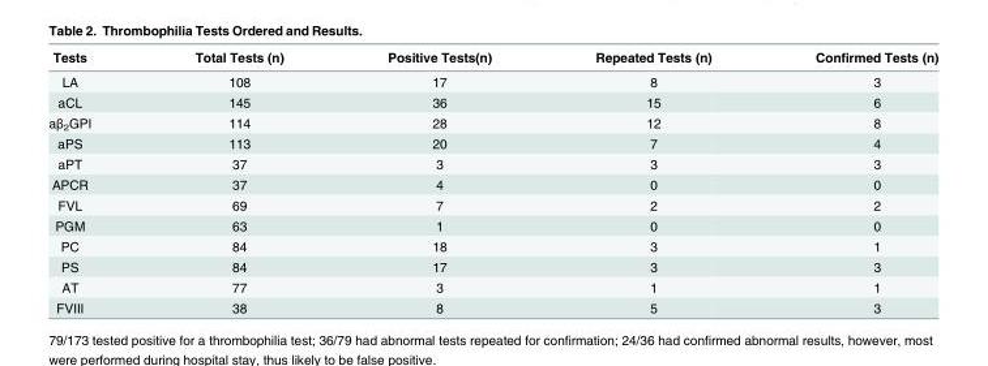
<table><thead><tr><td>Tests</td><td>Total Tests (n)</td><td>Positive Tests(n)</td><td>Repeated Tests (n)</td><td>Confirmed Tests (n)</td></tr></thead><tbody><tr><td>LA</td><td>108</td><td>17</td><td>8</td><td>3</td></tr><tr><td>aCL</td><td>145</td><td>36</td><td>15</td><td>6</td></tr><tr><td>aβ<sub>2</sub>GPI</td><td>114</td><td>28</td><td>12</td><td>8</td></tr><tr><td>aPS</td><td>113</td><td>20</td><td>7</td><td>4</td></tr><tr><td>aPT</td><td>37</td><td>3</td><td>3</td><td>3</td></tr><tr><td>APCR</td><td>37</td><td>4</td><td>0</td><td>0</td></tr><tr><td>FVL</td><td>69</td><td>7</td><td>2</td><td>2</td></tr><tr><td>PGM</td><td>63</td><td>1</td><td>0</td><td>0</td></tr><tr><td>PC</td><td>84</td><td>18</td><td>3</td><td>1</td></tr><tr><td>PS</td><td>84</td><td>17</td><td>3</td><td>3</td></tr><tr><td>AT</td><td>77</td><td>3</td><td>1</td><td>1</td></tr><tr><td>FVIII</td><td>38</td><td>8</td><td>5</td><td>3</td></tr></tbody></table>